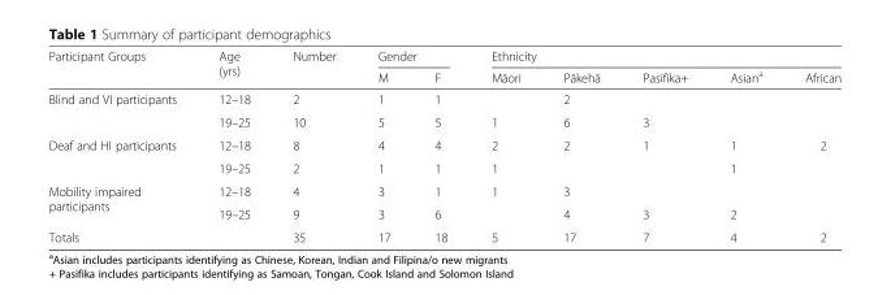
<table><thead><tr><td rowspan="2">Participant Groups</td><td rowspan="2">Age (yrs)</td><td rowspan="2">Number</td><td colspan="2">Gender</td><td colspan="5">Ethnicity</td></tr><tr><td>M</td><td>F</td><td>Māori</td><td>Pākehā</td><td>Pasifika+</td><td>Asian<sup>a</sup></td><td>African</td></tr></thead><tbody><tr><td rowspan="2">Blind and VI participants</td><td>12–18</td><td>2</td><td>1</td><td>1</td><td></td><td>2</td><td></td><td></td><td></td></tr><tr><td>19–25</td><td>10</td><td>5</td><td>5</td><td>1</td><td>6</td><td>3</td><td></td><td></td></tr><tr><td rowspan="2">Deaf and HI participants</td><td>12–18</td><td>8</td><td>4</td><td>4</td><td>2</td><td>2</td><td>1</td><td>1</td><td>2</td></tr><tr><td>19–25</td><td>2</td><td>1</td><td>1</td><td>1</td><td></td><td></td><td>1</td><td></td></tr><tr><td rowspan="2">Mobility impaired participants</td><td>12–18</td><td>4</td><td>3</td><td>1</td><td>1</td><td>3</td><td></td><td></td><td></td></tr><tr><td>19–25</td><td>9</td><td>3</td><td>6</td><td></td><td>4</td><td>3</td><td>2</td><td></td></tr><tr><td>Totals</td><td></td><td>35</td><td>17</td><td>18</td><td>5</td><td>17</td><td>7</td><td>4</td><td>2</td></tr></tbody></table>